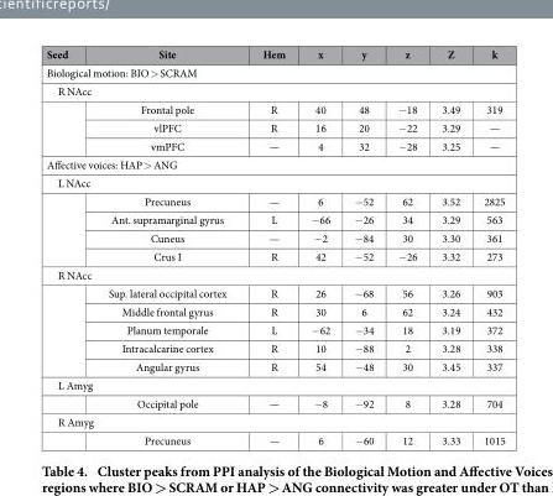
<table><thead><tr><td>Seed</td><td>Site</td><td>Hem</td><td>x</td><td>y</td><td>z</td><td>Z</td><td>k</td></tr></thead><tbody><tr><td colspan="8">Biological motion: BIO &gt; SCRAM</td></tr><tr><td colspan="8">R NAcc</td></tr><tr><td rowspan="3"></td><td>Frontal pole</td><td>R</td><td>40</td><td>48</td><td>− 18</td><td>3.49</td><td>319</td></tr><tr><td>vlPFC</td><td>R</td><td>16</td><td>20</td><td>− 22</td><td>3.29</td><td>—</td></tr><tr><td>vmPFC</td><td>—</td><td>4</td><td>32</td><td>− 28</td><td>3.25</td><td>—</td></tr><tr><td colspan="8">Affective voices: HAP &gt; ANG</td></tr><tr><td colspan="8">L NAcc</td></tr><tr><td rowspan="4"></td><td>Precuneus</td><td>—</td><td>6</td><td>− 52</td><td>62</td><td>3.52</td><td>2825</td></tr><tr><td>Ant. supramarginal gyrus</td><td>L</td><td>− 66</td><td>− 26</td><td>34</td><td>3.29</td><td>563</td></tr><tr><td>Cuneus</td><td>—</td><td>− 2</td><td>− 84</td><td>30</td><td>3.30</td><td>361</td></tr><tr><td>Crus I</td><td>R</td><td>42</td><td>− 52</td><td>− 26</td><td>3.32</td><td>273</td></tr><tr><td colspan="8">R NAcc</td></tr><tr><td rowspan="5"></td><td>Sup. lateral occipital cortex</td><td>R</td><td>26</td><td>− 68</td><td>56</td><td>3.26</td><td>903</td></tr><tr><td>Middle frontal gyrus</td><td>R</td><td>30</td><td>6</td><td>62</td><td>3.24</td><td>432</td></tr><tr><td>Planum temporale</td><td>L</td><td>− 62</td><td>− 34</td><td>18</td><td>3.19</td><td>372</td></tr><tr><td>Intracalcarine cortex</td><td>R</td><td>10</td><td>− 88</td><td>2</td><td>3.28</td><td>338</td></tr><tr><td>Angular gyrus</td><td>R</td><td>54</td><td>− 48</td><td>30</td><td>3.45</td><td>337</td></tr><tr><td colspan="8">L Amyg</td></tr><tr><td></td><td>Occipital pole</td><td>—</td><td>− 8</td><td>− 92</td><td>8</td><td>3.28</td><td>704</td></tr><tr><td colspan="8">R Amyg</td></tr><tr><td></td><td>Precuneus</td><td>—</td><td>6</td><td>− 60</td><td>12</td><td>3.33</td><td>1015</td></tr></tbody></table>